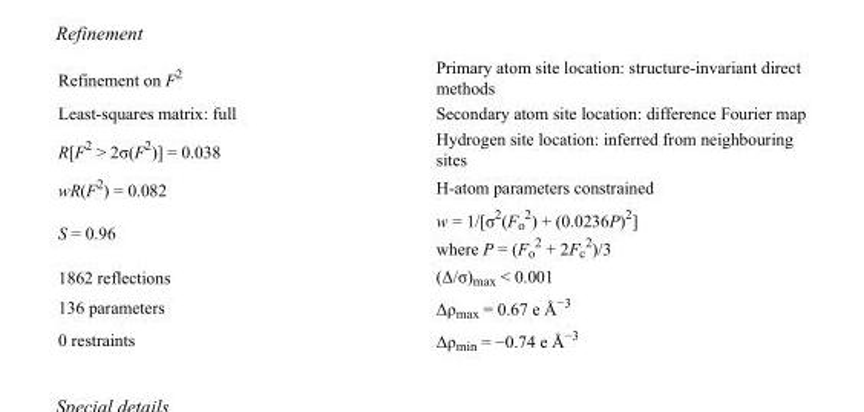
<table><tbody><tr><td>Refinement on F<sup>2</sup></td><td>Primary atom site location: structure-invariant direct methods</td></tr><tr><td>Least-squares matrix: full</td><td>Secondary atom site location: difference Fourier map</td></tr><tr><td>R[F<sup>2</sup> &gt; 2σ(F<sup>2</sup>)] = 0.038</td><td>Hydrogen site location: inferred from neighbouring sites</td></tr><tr><td>wR(F<sup>2</sup>) = 0.082</td><td>H-atom parameters constrained</td></tr><tr><td>S = 0.96</td><td>w = 1/[σ<sup>2</sup>(F<sub>o</sub> <sup>2</sup>) + (0.0236P)<sup>2</sup>] where P = (F<sub>o</sub> <sup>2</sup> + 2F<sub>c</sub> <sup>2</sup>)/3</td></tr><tr><td>1862 reflections</td><td>(Δ/σ)<sub>max</sub> &lt; 0.001</td></tr><tr><td>136 parameters</td><td>Δρ<sub>max</sub> = 0.67 e Å<sup>−3</sup></td></tr><tr><td>0 restraints</td><td>Δρ<sub>min</sub> = −0.74 e Å<sup>−3</sup></td></tr></tbody></table>